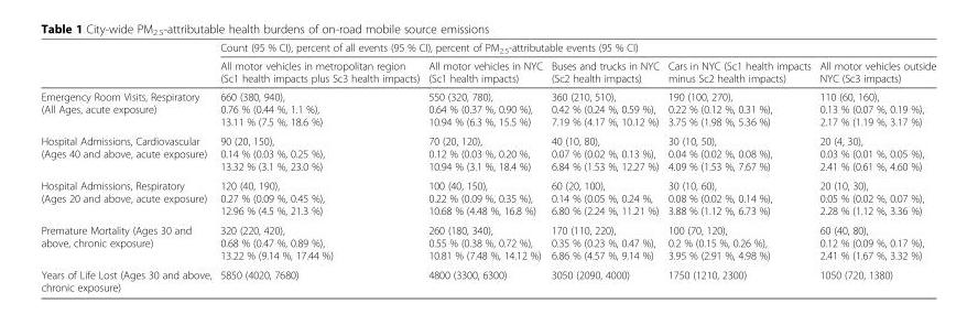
<table><thead><tr><td rowspan="2"></td><td colspan="5">Count (95 % CI), percent of all events (95 % CI), percent of PM<sub>2.5</sub>-attributable events (95 % CI)</td></tr><tr><td>All motor vehicles in metropolitan region (Sc1 health impacts plus Sc3 health impacts)</td><td>All motor vehicles in NYC (Sc1 health impacts)</td><td>Buses and trucks in NYC (Sc2 health impacts)</td><td>Cars in NYC (Sc1 health impacts minus Sc2 health impacts)</td><td>All motor vehicles outside NYC (Sc3 impacts)</td></tr></thead><tbody><tr><td>Emergency Room Visits, Respiratory (All Ages, acute exposure)</td><td>660 (380, 940), 0.76 % (0.44 %, 1.1 %), 13.11 % (7.5 %, 18.6 %)</td><td>550 (320, 780), 0.64 % (0.37 %, 0.90 %), 10.94 % (6.3 %, 15.5 %)</td><td>360 (210, 510), 0.42 % (0.24 %, 0.59 %), 7.19 % (4.17 %, 10.12 %)</td><td>190 (100, 270), 0.22 % (0.12 %, 0.31 %), 3.75 % (1.98 %, 5.36 %)</td><td>110 (60, 160), 0.13 % (0.07 %, 0.19 %), 2.17 % (1.19 %, 3.17 %)</td></tr><tr><td>Hospital Admissions, Cardiovascular (Ages 40 and above, acute exposure)</td><td>90 (20, 150), 0.14 % (0.03 %, 0.25 %), 13.32 % (3.1 %, 23.0 %)</td><td>70 (20, 120), 0.12 % (0.03 %, 0.20 %, 10.94 % (3.1 %, 18.4 %)</td><td>40 (10, 80), 0.07 % (0.02 %, 0.13 %), 6.84 % (1.53 %, 12.27 %)</td><td>30 (10, 50), 0.04 % (0.02 %, 0.08 %), 4.09 % (1.53 %, 7.67 %)</td><td>20 (4, 30), 0.03 % (0.01 %, 0.05 %), 2.41 % (0.61 %, 4.60 %)</td></tr><tr><td>Hospital Admissions, Respiratory (Ages 20 and above, acute exposure)</td><td>120 (40, 190), 0.27 % (0.09 %, 0.45 %), 12.96 % (4.5 %, 21.3 %)</td><td>100 (40, 150), 0.22 % (0.09 %, 0.35 %), 10.68 % (4.48 %, 16.8 %)</td><td>60 (20, 100), 0.14 % (0.05 %, 0.24 %, 6.80 % (2.24 %, 11.21 %)</td><td>30 (10, 60), 0.08 % (0.02 %, 0.14 %), 3.88 % (1.12 %, 6.73 %)</td><td>20 (10, 30), 0.05 % (0.02 %, 0.07 %), 2.28 % (1.12 %, 3.36 %)</td></tr><tr><td>Premature Mortality (Ages 30 and above, chronic exposure)</td><td>320 (220, 420), 0.68 % (0.47 %, 0.89 %), 13.22 % (9.14 %, 17.44 %)</td><td>260 (180, 340), 0.55 % (0.38 %, 0.72 %), 10.81 % (7.48 %, 14.12 %)</td><td>170 (110, 220), 0.35 % (0.23 %, 0.47 %), 6.86 % (4.57 %, 9.14 %)</td><td>100 (70, 120), 0.2 % (0.15 %, 0.26 %), 3.95 % (2.91 %, 4.98 %)</td><td>60 (40, 80), 0.12 % (0.09 %, 0.17 %), 2.41 % (1.67 %, 3.32 %)</td></tr><tr><td>Years of Life Lost (Ages 30 and above, chronic exposure)</td><td>5850 (4020, 7680)</td><td>4800 (3300, 6300)</td><td>3050 (2090, 4000)</td><td>1750 (1210, 2300)</td><td>1050 (720, 1380)</td></tr></tbody></table>